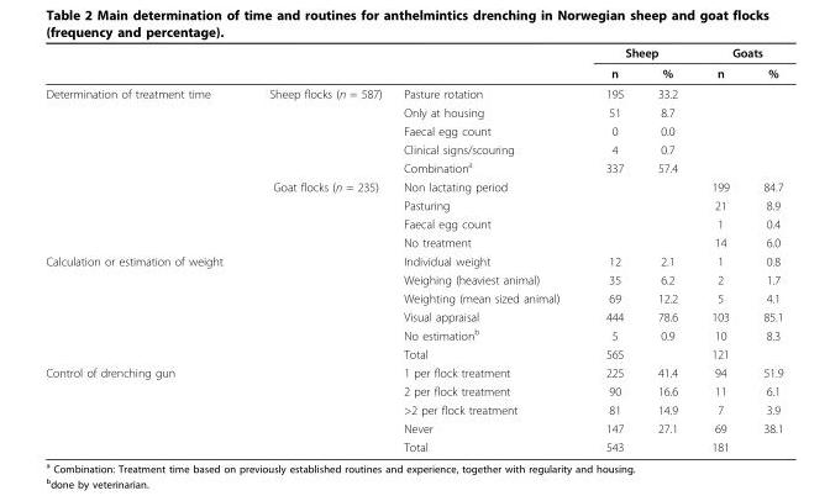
<table><thead><tr><td rowspan="2"></td><td rowspan="2"></td><td rowspan="2"></td><td colspan="2">Sheep</td><td colspan="2">Goats</td></tr><tr><td>n</td><td>%</td><td>n</td><td>%</td></tr></thead><tbody><tr><td rowspan="9">Determination of treatment time</td><td>Sheep flocks (n = 587)</td><td>Pasture rotation</td><td>195</td><td>33.2</td><td></td><td></td></tr><tr><td></td><td>Only at housing</td><td>51</td><td>8.7</td><td></td><td></td></tr><tr><td></td><td>Faecal egg count</td><td>0</td><td>0.0</td><td></td><td></td></tr><tr><td></td><td>Clinical signs/scouring</td><td>4</td><td>0.7</td><td></td><td></td></tr><tr><td></td><td>Combination<sup>a</sup></td><td>337</td><td>57.4</td><td></td><td></td></tr><tr><td>Goat flocks (n = 235)</td><td>Non lactating period</td><td></td><td></td><td>199</td><td>84.7</td></tr><tr><td></td><td>Pasturing</td><td></td><td></td><td>21</td><td>8.9</td></tr><tr><td></td><td>Faecal egg count</td><td></td><td></td><td>1</td><td>0.4</td></tr><tr><td></td><td>No treatment</td><td></td><td></td><td>14</td><td>6.0</td></tr><tr><td rowspan="6">Calculation or estimation of weight</td><td></td><td>Individual weight</td><td>12</td><td>2.1</td><td>1</td><td>0.8</td></tr><tr><td></td><td>Weighing (heaviest animal)</td><td>35</td><td>6.2</td><td>2</td><td>1.7</td></tr><tr><td></td><td>Weighting (mean sized animal)</td><td>69</td><td>12.2</td><td>5</td><td>4.1</td></tr><tr><td></td><td>Visual appraisal</td><td>444</td><td>78.6</td><td>103</td><td>85.1</td></tr><tr><td></td><td>No estimation<sup>b</sup></td><td>5</td><td>0.9</td><td>10</td><td>8.3</td></tr><tr><td></td><td>Total</td><td>565</td><td></td><td>121</td><td></td></tr><tr><td rowspan="5">Control of drenching gun</td><td></td><td>1 per flock treatment</td><td>225</td><td>41.4</td><td>94</td><td>51.9</td></tr><tr><td></td><td>2 per flock treatment</td><td>90</td><td>16.6</td><td>11</td><td>6.1</td></tr><tr><td></td><td>&gt;2 per flock treatment</td><td>81</td><td>14.9</td><td>7</td><td>3.9</td></tr><tr><td></td><td>Never</td><td>147</td><td>27.1</td><td>69</td><td>38.1</td></tr><tr><td></td><td>Total</td><td>543</td><td></td><td>181</td><td></td></tr></tbody></table>